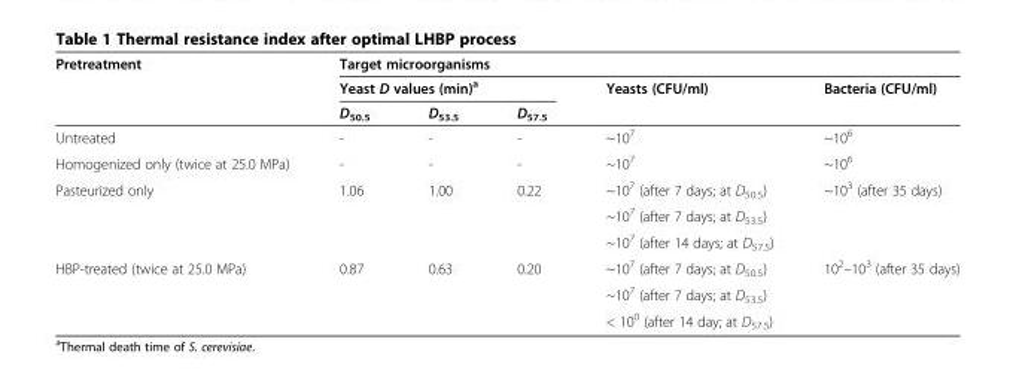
<table><thead><tr><td rowspan="3">Pretreatment</td><td colspan="5">Target microorganisms</td></tr><tr><td colspan="3">Yeast D values (min)<sup>a</sup></td><td rowspan="2">Yeasts (CFU/ml)</td><td rowspan="2">Bacteria (CFU/ml)</td></tr><tr><td>D<sub>50.5</sub></td><td>D<sub>53.5</sub></td><td>D<sub>57.5</sub></td></tr></thead><tbody><tr><td>Untreated</td><td>-</td><td>-</td><td>-</td><td>~10<sup>7</sup></td><td>~10<sup>6</sup></td></tr><tr><td>Homogenized only (twice at 25.0 MPa)</td><td>-</td><td>-</td><td>-</td><td>~10<sup>7</sup></td><td>~10<sup>6</sup></td></tr><tr><td rowspan="3">Pasteurized only</td><td rowspan="3">1.06</td><td rowspan="3">1.00</td><td rowspan="3">0.22</td><td>~10<sup>7</sup> (after 7 days; at D<sub>50.5</sub>)</td><td rowspan="3">~10<sup>3</sup> (after 35 days)</td></tr><tr><td>~10<sup>7</sup> (after 7 days; at D<sub>53.5</sub>)</td></tr><tr><td>~10<sup>7</sup> (after 14 days; at D<sub>57.5</sub>)</td></tr><tr><td rowspan="3">HBP-treated (twice at 25.0 MPa)</td><td rowspan="3">0.87</td><td rowspan="3">0.63</td><td rowspan="3">0.20</td><td>~10<sup>7</sup> (after 7 days; at D<sub>50.5</sub>)</td><td rowspan="3">10<sup>2</sup>–10<sup>3</sup> (after 35 days)</td></tr><tr><td>~10<sup>7</sup> (after 7 days; at D<sub>53.5</sub>)</td></tr><tr><td>&lt; 10<sup>0</sup> (after 14 day; at D<sub>57.5</sub>)</td></tr></tbody></table>